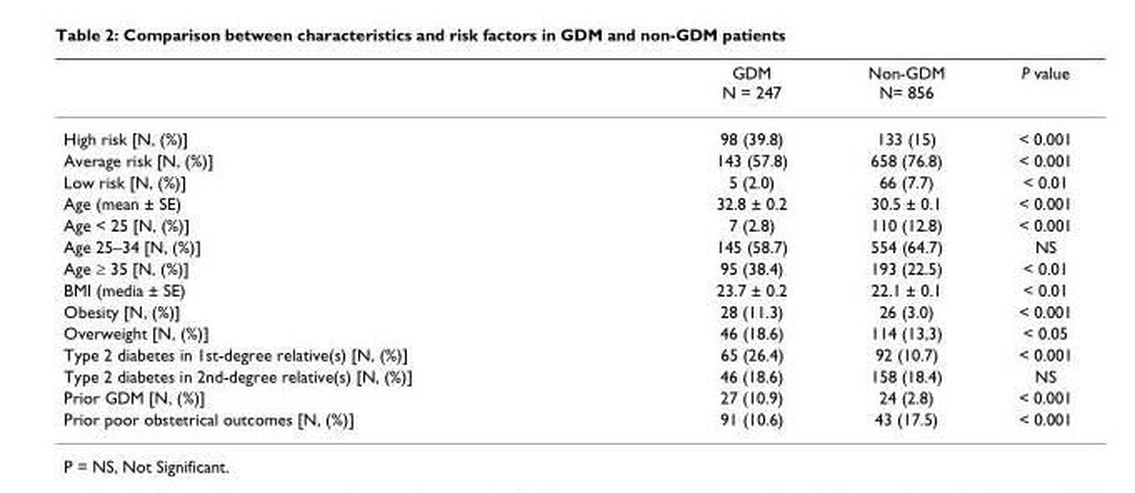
<table><thead><tr><td></td><td>GDM N = 247</td><td>Non-GDM N= 856</td><td>P value</td></tr></thead><tbody><tr><td>High risk [N, (%)]</td><td>98 (39.8)</td><td>133 (15)</td><td>&lt; 0.001</td></tr><tr><td>Average risk [N, (%)]</td><td>143 (57.8)</td><td>658 (76.8)</td><td>&lt; 0.001</td></tr><tr><td>Low risk [N, (%)]</td><td>5 (2.0)</td><td>66 (7.7)</td><td>&lt; 0.01</td></tr><tr><td>Age (mean ± SE)</td><td>32.8 ± 0.2</td><td>30.5 ± 0.1</td><td>&lt; 0.001</td></tr><tr><td>Age &lt; 25 [N, (%)]</td><td>7 (2.8)</td><td>110 (12.8)</td><td>&lt; 0.001</td></tr><tr><td>Age 25–34 [N, (%)]</td><td>145 (58.7)</td><td>554 (64.7)</td><td>NS</td></tr><tr><td>Age ≥ 35 [N, (%)]</td><td>95 (38.4)</td><td>193 (22.5)</td><td>&lt; 0.01</td></tr><tr><td>BMI (media ± SE)</td><td>23.7 ± 0.2</td><td>22.1 ± 0.1</td><td>&lt; 0.01</td></tr><tr><td>Obesity [N, (%)]</td><td>28 (11.3)</td><td>26 (3.0)</td><td>&lt; 0.001</td></tr><tr><td>Overweight [N, (%)]</td><td>46 (18.6)</td><td>114 (13,3)</td><td>&lt; 0.05</td></tr><tr><td>Type 2 diabetes in 1st-degree relative(s) [N, (%)]</td><td>65 (26.4)</td><td>92 (10.7)</td><td>&lt; 0.001</td></tr><tr><td>Type 2 diabetes in 2nd-degree relative(s) [N, (%)]</td><td>46 (18.6)</td><td>158 (18.4)</td><td>NS</td></tr><tr><td>Prior GDM [N, (%)]</td><td>27 (10.9)</td><td>24 (2.8)</td><td>&lt; 0.001</td></tr><tr><td>Prior poor obstetrical outcomes [N, (%)]</td><td>91 (10.6)</td><td>43 (17.5)</td><td>&lt; 0.001</td></tr></tbody></table>